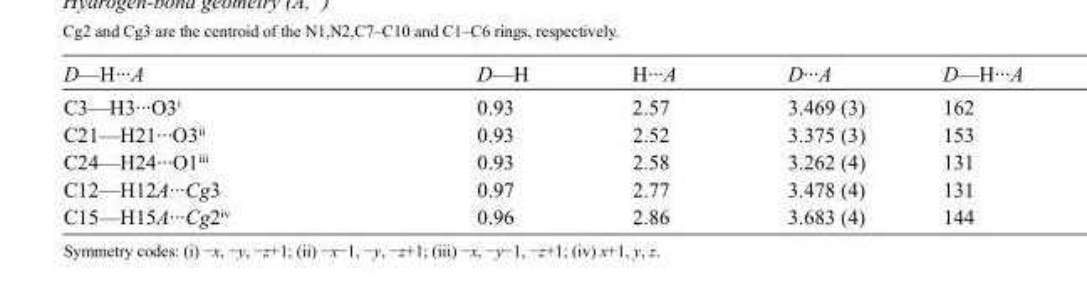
<table><tbody><tr><td>D—H···A</td><td>D—H</td><td>H···A</td><td>D···A</td><td>D—H···A</td></tr><tr><td>C3—H3···O3<sup>i</sup></td><td>0.93</td><td>2.57</td><td>3.469 (3)</td><td>162</td></tr><tr><td>C21—H21···O3<sup>ii</sup></td><td>0.93</td><td>2.52</td><td>3.375 (3)</td><td>153</td></tr><tr><td>C24—H24···O1<sup>iii</sup></td><td>0.93</td><td>2.58</td><td>3.262 (4)</td><td>131</td></tr><tr><td>C12—H12A···Cg3</td><td>0.97</td><td>2.77</td><td>3.478 (4)</td><td>131</td></tr><tr><td>C15—H15A···Cg2<sup>iv</sup></td><td>0.96</td><td>2.86</td><td>3.683 (4)</td><td>144</td></tr></tbody></table>